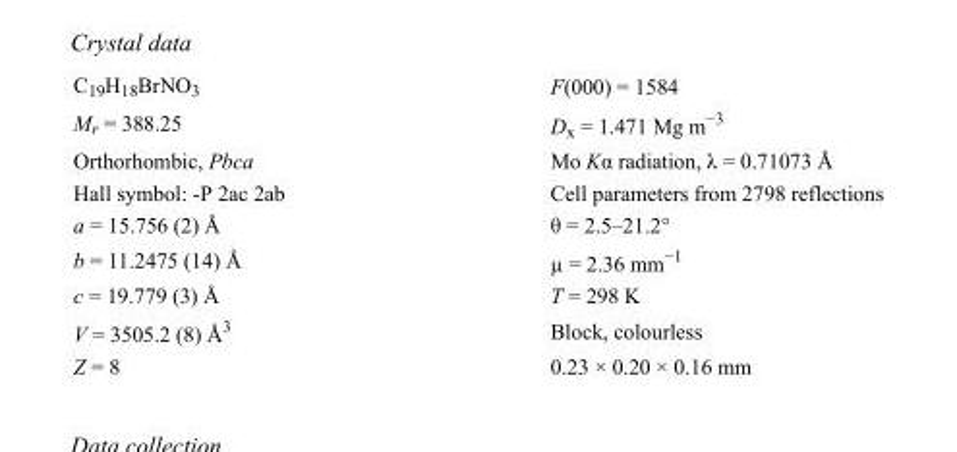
<table><tbody><tr><td>C<sub>19</sub>H<sub>18</sub>BrNO<sub>3</sub></td><td>F(000) = 1584</td></tr><tr><td>M<sub>r</sub> = 388.25</td><td>D<sub>x</sub> = 1.471 Mg m<sup>−3</sup></td></tr><tr><td>Orthorhombic, Pbca</td><td>Mo Kα radiation, λ = 0.71073 Å</td></tr><tr><td>Hall symbol: -P 2ac 2ab</td><td>Cell parameters from 2798 reflections</td></tr><tr><td>a = 15.756 (2) Å</td><td>θ = 2.5–21.2°</td></tr><tr><td>b = 11.2475 (14) Å</td><td>µ = 2.36 mm<sup>−1</sup></td></tr><tr><td>c = 19.779 (3) Å</td><td>T = 298 K</td></tr><tr><td>V = 3505.2 (8) Å<sup>3</sup></td><td>Block, colourless</td></tr><tr><td>Z = 8</td><td>0.23 × 0.20 × 0.16 mm</td></tr></tbody></table>